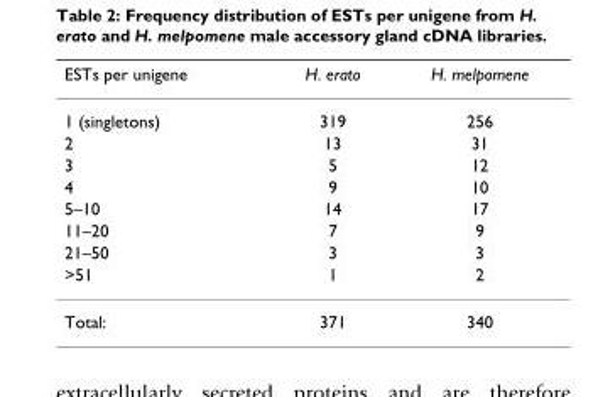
<table><thead><tr><td>ESTs per unigene</td><td>H. erato</td><td>H. melpomene</td></tr></thead><tbody><tr><td>1 (singletons)</td><td>319</td><td>256</td></tr><tr><td>2</td><td>13</td><td>31</td></tr><tr><td>3</td><td>5</td><td>12</td></tr><tr><td>4</td><td>9</td><td>10</td></tr><tr><td>5–10</td><td>14</td><td>17</td></tr><tr><td>11–20</td><td>7</td><td>9</td></tr><tr><td>21–50</td><td>3</td><td>3</td></tr><tr><td>&gt;51</td><td>1</td><td>2</td></tr><tr><td>Total:</td><td>371</td><td>340</td></tr></tbody></table>